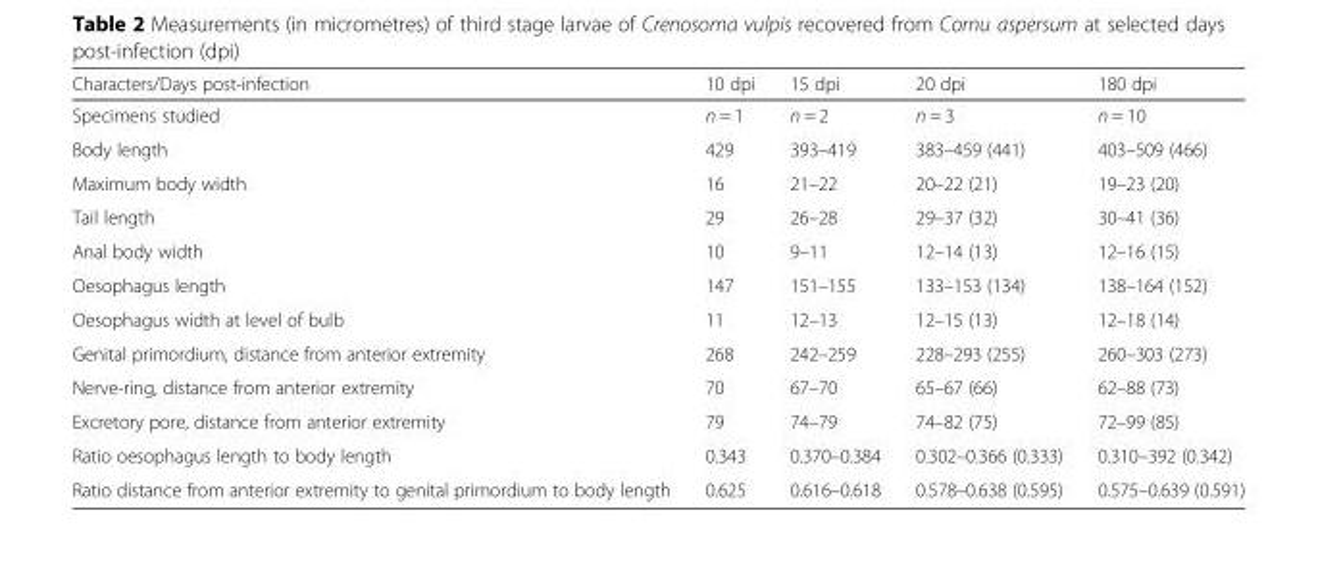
<table><thead><tr><td>Characters/Days post-infection</td><td>10 dpi</td><td>15 dpi</td><td>20 dpi</td><td>180 dpi</td></tr></thead><tbody><tr><td>Specimens studied</td><td>n = 1</td><td>n = 2</td><td>n = 3</td><td>n = 10</td></tr><tr><td>Body length</td><td>429</td><td>393–419</td><td>383–459 (441)</td><td>403–509 (466)</td></tr><tr><td>Maximum body width</td><td>16</td><td>21–22</td><td>20–22 (21)</td><td>19–23 (20)</td></tr><tr><td>Tail length</td><td>29</td><td>26–28</td><td>29–37 (32)</td><td>30–41 (36)</td></tr><tr><td>Anal body width</td><td>10</td><td>9–11</td><td>12–14 (13)</td><td>12–16 (15)</td></tr><tr><td>Oesophagus length</td><td>147</td><td>151–155</td><td>133–153 (134)</td><td>138–164 (152)</td></tr><tr><td>Oesophagus width at level of bulb</td><td>11</td><td>12–13</td><td>12–15 (13)</td><td>12–18 (14)</td></tr><tr><td>Genital primordium, distance from anterior extremity</td><td>268</td><td>242–259</td><td>228–293 (255)</td><td>260–303 (273)</td></tr><tr><td>Nerve-ring, distance from anterior extremity</td><td>70</td><td>67–70</td><td>65–67 (66)</td><td>62–88 (73)</td></tr><tr><td>Excretory pore, distance from anterior extremity</td><td>79</td><td>74–79</td><td>74–82 (75)</td><td>72–99 (85)</td></tr><tr><td>Ratio oesophagus length to body length</td><td>0.343</td><td>0.370–0.384</td><td>0.302–0.366 (0.333)</td><td>0.310–392 (0.342)</td></tr><tr><td>Ratio distance from anterior extremity to genital primordium to body length</td><td>0.625</td><td>0.616–0.618</td><td>0.578–0.638 (0.595)</td><td>0.575–0.639 (0.591)</td></tr></tbody></table>